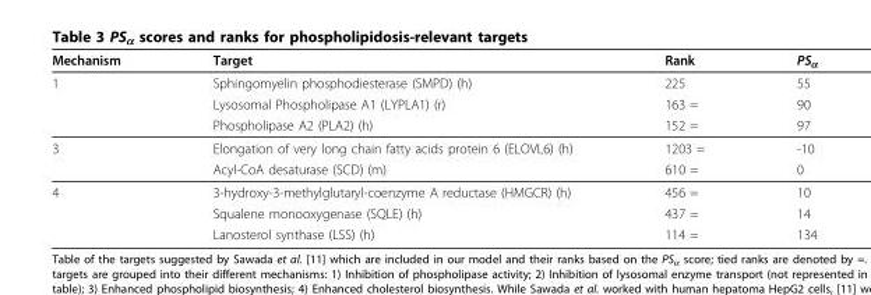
<table><thead><tr><td>Mechanism</td><td>Target</td><td>Rank</td><td>PS<sub>α</sub></td></tr></thead><tbody><tr><td rowspan="3">1</td><td>Sphingomyelin phosphodiesterase (SMPD) (h)</td><td>225</td><td>55</td></tr><tr><td>Lysosomal Phospholipase A1 (LYPLA1) (r)</td><td>163 =</td><td>90</td></tr><tr><td>Phospholipase A2 (PLA2) (h)</td><td>152 =</td><td>97</td></tr><tr><td rowspan="2">3</td><td>Elongation of very long chain fatty acids protein 6 (ELOVL6) (h)</td><td>1203 =</td><td>-10</td></tr><tr><td>Acyl-CoA desaturase (SCD) (m)</td><td>610 =</td><td>0</td></tr><tr><td rowspan="3">4</td><td>3-hydroxy-3-methylglutaryl-coenzyme A reductase (HMGCR) (h)</td><td>456 =</td><td>10</td></tr><tr><td>Squalene monooxygenase (SQLE) (h)</td><td>437 =</td><td>14</td></tr><tr><td>Lanosterol synthase (LSS) (h)</td><td>114 =</td><td>134</td></tr></tbody></table>